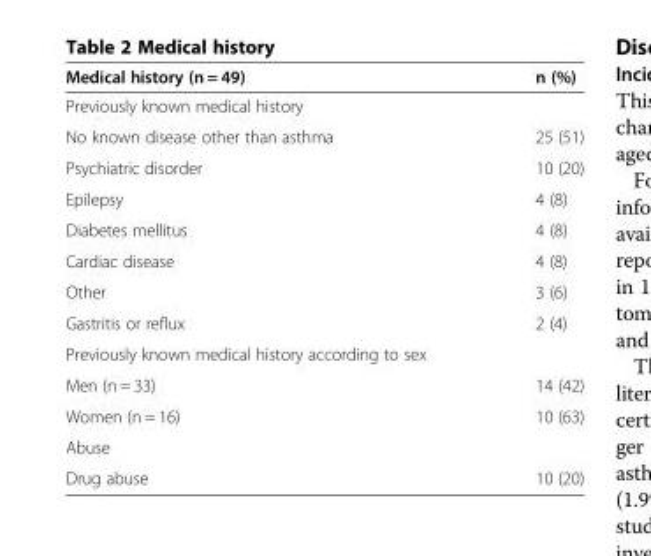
<table><thead><tr><td>Medical history (n = 49)</td><td>n (%)</td></tr></thead><tbody><tr><td colspan="2">Previously known medical history</td></tr><tr><td>No known disease other than asthma</td><td>25 (51)</td></tr><tr><td>Psychiatric disorder</td><td>10 (20)</td></tr><tr><td>Epilepsy</td><td>4 (8)</td></tr><tr><td>Diabetes mellitus</td><td>4 (8)</td></tr><tr><td>Cardiac disease</td><td>4 (8)</td></tr><tr><td>Other</td><td>3 (6)</td></tr><tr><td>Gastritis or reflux</td><td>2 (4)</td></tr><tr><td colspan="2">Previously known medical history according to sex</td></tr><tr><td>Men (n = 33)</td><td>14 (42)</td></tr><tr><td>Women (n = 16)</td><td>10 (63)</td></tr><tr><td colspan="2">Abuse</td></tr><tr><td>Drug abuse</td><td>10 (20)</td></tr></tbody></table>